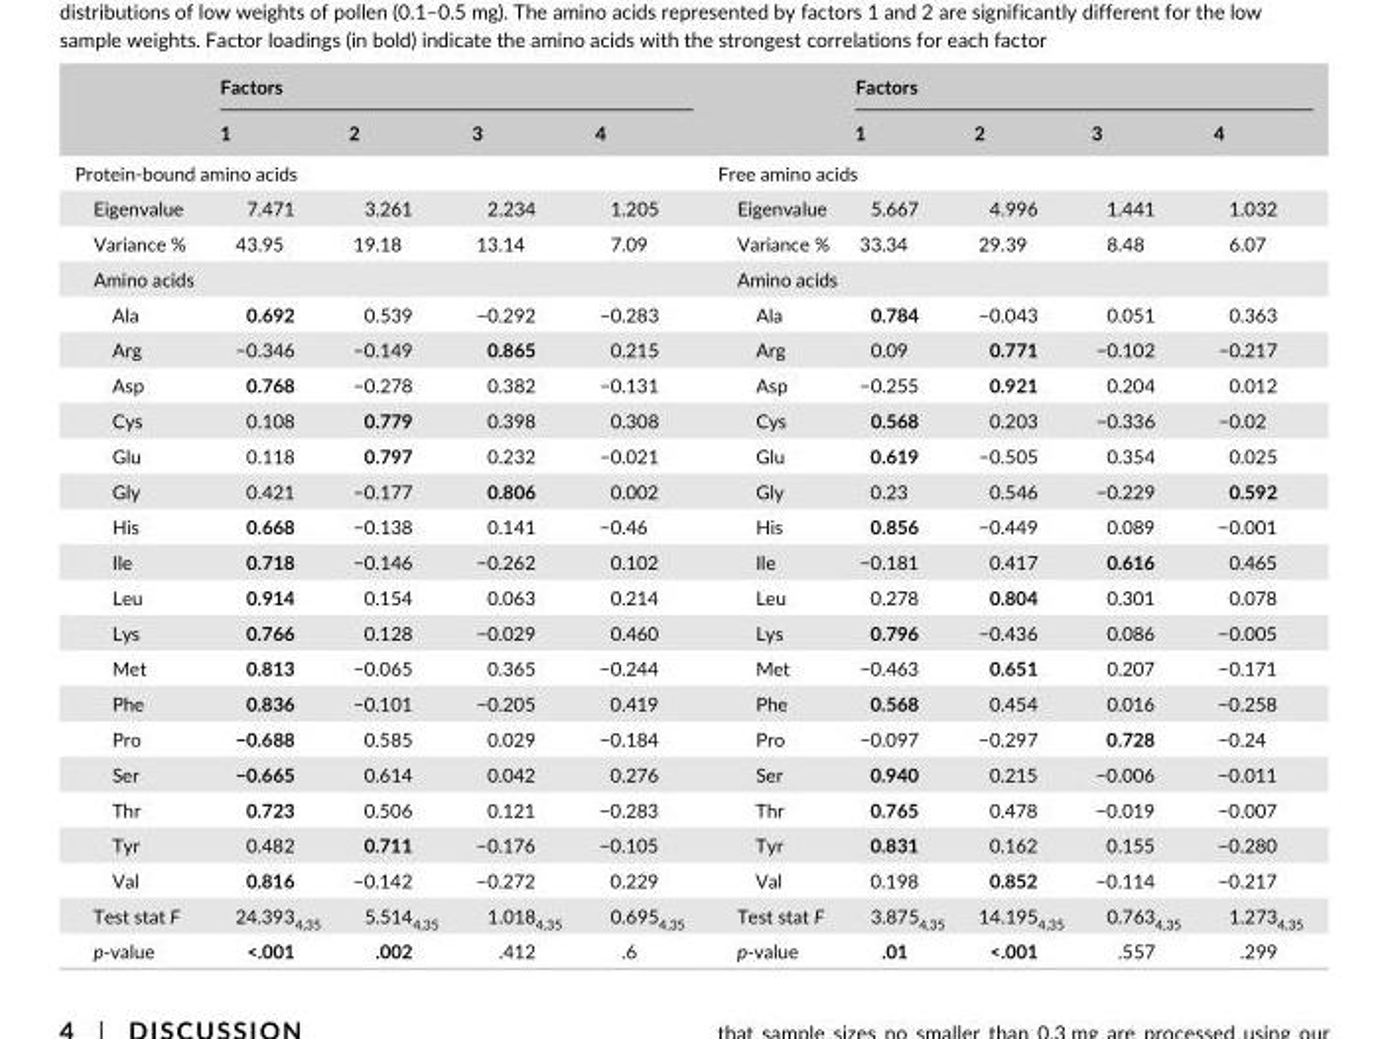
<table><thead><tr><td rowspan="2"></td><td colspan="4">Factors</td><td rowspan="2"></td><td colspan="4">Factors</td></tr><tr><td>1</td><td>2</td><td>3</td><td>4</td><td>1</td><td>2</td><td>3</td><td>4</td></tr></thead><tbody><tr><td colspan="5">Protein- bound amino acids</td><td colspan="5">Free amino acids</td></tr><tr><td>Eigenvalue</td><td>7.471</td><td>3.261</td><td>2.234</td><td>1.205</td><td>Eigenvalue</td><td>5.667</td><td>4.996</td><td>1.441</td><td>1.032</td></tr><tr><td>Variance %</td><td>43.95</td><td>19.18</td><td>13.14</td><td>7.09</td><td>Variance %</td><td>33.34</td><td>29.39</td><td>8.48</td><td>6.07</td></tr><tr><td colspan="5">Amino acids</td><td colspan="5">Amino acids</td></tr><tr><td>Ala</td><td>0.692</td><td>0.539</td><td>−0.292</td><td>−0.283</td><td>Ala</td><td>0.784</td><td>−0.043</td><td>0.051</td><td>0.363</td></tr><tr><td>Arg</td><td>−0.346</td><td>−0.149</td><td>0.865</td><td>0.215</td><td>Arg</td><td>0.09</td><td>0.771</td><td>−0.102</td><td>−0.217</td></tr><tr><td>Asp</td><td>0.768</td><td>−0.278</td><td>0.382</td><td>−0.131</td><td>Asp</td><td>−0.255</td><td>0.921</td><td>0.204</td><td>0.012</td></tr><tr><td>Cys</td><td>0.108</td><td>0.779</td><td>0.398</td><td>0.308</td><td>Cys</td><td>0.568</td><td>0.203</td><td>−0.336</td><td>−0.02</td></tr><tr><td>Glu</td><td>0.118</td><td>0.797</td><td>0.232</td><td>−0.021</td><td>Glu</td><td>0.619</td><td>−0.505</td><td>0.354</td><td>0.025</td></tr><tr><td>Gly</td><td>0.421</td><td>−0.177</td><td>0.806</td><td>0.002</td><td>Gly</td><td>0.23</td><td>0.546</td><td>−0.229</td><td>0.592</td></tr><tr><td>His</td><td>0.668</td><td>−0.138</td><td>0.141</td><td>−0.46</td><td>His</td><td>0.856</td><td>−0.449</td><td>0.089</td><td>−0.001</td></tr><tr><td>Ile</td><td>0.718</td><td>−0.146</td><td>−0.262</td><td>0.102</td><td>Ile</td><td>−0.181</td><td>0.417</td><td>0.616</td><td>0.465</td></tr><tr><td>Leu</td><td>0.914</td><td>0.154</td><td>0.063</td><td>0.214</td><td>Leu</td><td>0.278</td><td>0.804</td><td>0.301</td><td>0.078</td></tr><tr><td>Lys</td><td>0.766</td><td>0.128</td><td>−0.029</td><td>0.460</td><td>Lys</td><td>0.796</td><td>−0.436</td><td>0.086</td><td>−0.005</td></tr><tr><td>Met</td><td>0.813</td><td>−0.065</td><td>0.365</td><td>−0.244</td><td>Met</td><td>−0.463</td><td>0.651</td><td>0.207</td><td>−0.171</td></tr><tr><td>Phe</td><td>0.836</td><td>−0.101</td><td>−0.205</td><td>0.419</td><td>Phe</td><td>0.568</td><td>0.454</td><td>0.016</td><td>−0.258</td></tr><tr><td>Pro</td><td>−0.688</td><td>0.585</td><td>0.029</td><td>−0.184</td><td>Pro</td><td>−0.097</td><td>−0.297</td><td>0.728</td><td>−0.24</td></tr><tr><td>Ser</td><td>−0.665</td><td>0.614</td><td>0.042</td><td>0.276</td><td>Ser</td><td>0.940</td><td>0.215</td><td>−0.006</td><td>−0.011</td></tr><tr><td>Thr</td><td>0.723</td><td>0.506</td><td>0.121</td><td>−0.283</td><td>Thr</td><td>0.765</td><td>0.478</td><td>−0.019</td><td>−0.007</td></tr><tr><td>Tyr</td><td>0.482</td><td>0.711</td><td>−0.176</td><td>−0.105</td><td>Tyr</td><td>0.831</td><td>0.162</td><td>0.155</td><td>−0.280</td></tr><tr><td>Val</td><td>0.816</td><td>−0.142</td><td>−0.272</td><td>0.229</td><td>Val</td><td>0.198</td><td>0.852</td><td>−0.114</td><td>−0.217</td></tr><tr><td>Test stat F</td><td>24.393<sub>4,35</sub></td><td>5.514<sub>4,35</sub></td><td>1.018<sub>4,35</sub></td><td>0.695<sub>4,35</sub></td><td>Test stat F</td><td>3.875<sub>4,35</sub></td><td>14.195<sub>4,35</sub></td><td>0.763<sub>4,35</sub></td><td>1.273<sub>4,35</sub></td></tr><tr><td>p- value</td><td>&lt;.001</td><td>.002</td><td>.412</td><td>.6</td><td>p- value</td><td>.01</td><td>&lt;.001</td><td>.557</td><td>.299</td></tr></tbody></table>